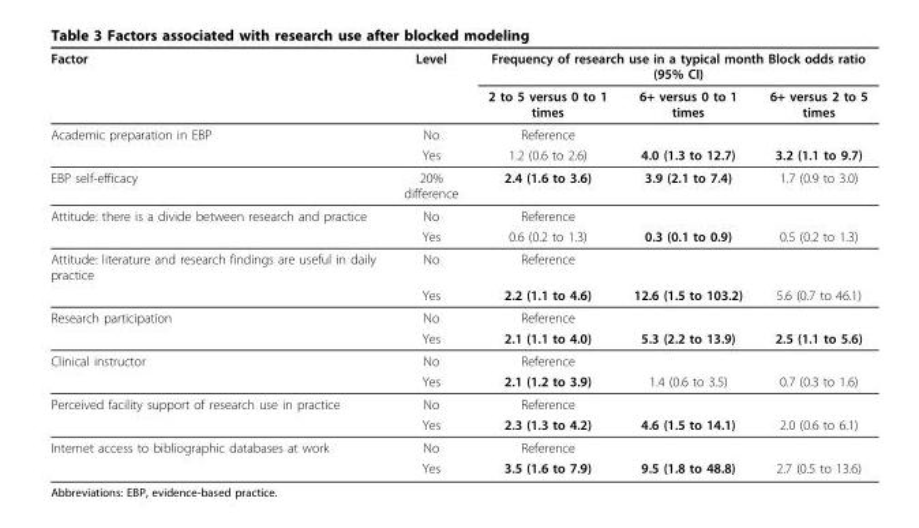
<table><thead><tr><td rowspan="2">Factor</td><td rowspan="2">Level</td><td colspan="3">Frequency of research use in a typical month Block odds ratio (95% CI)</td></tr><tr><td>2 to 5 versus 0 to 1 times</td><td>6+ versus 0 to 1 times</td><td>6+ versus 2 to 5 times</td></tr></thead><tbody><tr><td rowspan="2">Academic preparation in EBP</td><td>No</td><td>Reference</td><td></td><td></td></tr><tr><td>Yes</td><td>1.2 (0.6 to 2.6)</td><td>4.0 (1.3 to 12.7)</td><td>3.2 (1.1 to 9.7)</td></tr><tr><td>EBP self-efficacy</td><td>20% difference</td><td>2.4 (1.6 to 3.6)</td><td>3.9 (2.1 to 7.4)</td><td>1.7 (0.9 to 3.0)</td></tr><tr><td rowspan="2">Attitude: there is a divide between research and practice</td><td>No</td><td>Reference</td><td></td><td></td></tr><tr><td>Yes</td><td>0.6 (0.2 to 1.3)</td><td>0.3 (0.1 to 0.9)</td><td>0.5 (0.2 to 1.3)</td></tr><tr><td rowspan="2">Attitude: literature and research findings are useful in daily practice</td><td>No</td><td>Reference</td><td></td><td></td></tr><tr><td>Yes</td><td>2.2 (1.1 to 4.6)</td><td>12.6 (1.5 to 103.2)</td><td>5.6 (0.7 to 46.1)</td></tr><tr><td rowspan="2">Research participation</td><td>No</td><td>Reference</td><td></td><td></td></tr><tr><td>Yes</td><td>2.1 (1.1 to 4.0)</td><td>5.3 (2.2 to 13.9)</td><td>2.5 (1.1 to 5.6)</td></tr><tr><td rowspan="2">Clinical instructor</td><td>No</td><td>Reference</td><td></td><td></td></tr><tr><td>Yes</td><td>2.1 (1.2 to 3.9)</td><td>1.4 (0.6 to 3.5)</td><td>0.7 (0.3 to 1.6)</td></tr><tr><td rowspan="2">Perceived facility support of research use in practice</td><td>No</td><td>Reference</td><td></td><td></td></tr><tr><td>Yes</td><td>2.3 (1.3 to 4.2)</td><td>4.6 (1.5 to 14.1)</td><td>2.0 (0.6 to 6.1)</td></tr><tr><td rowspan="2">Internet access to bibliographic databases at work</td><td>No</td><td>Reference</td><td></td><td></td></tr><tr><td>Yes</td><td>3.5 (1.6 to 7.9)</td><td>9.5 (1.8 to 48.8)</td><td>2.7 (0.5 to 13.6)</td></tr></tbody></table>